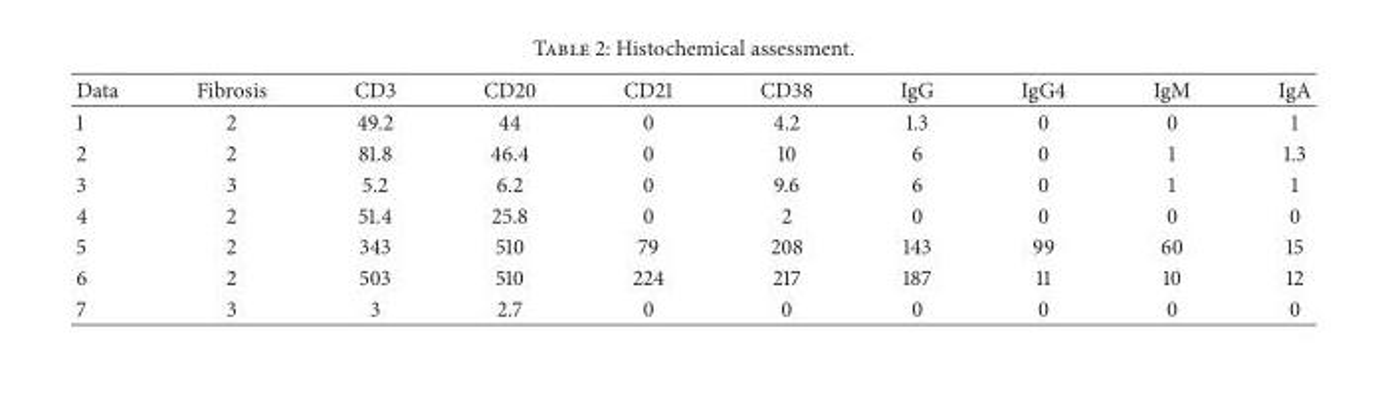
<table><thead><tr><td>Data</td><td>Fibrosis</td><td>CD3</td><td>CD20</td><td>CD21</td><td>CD38</td><td>IgG</td><td>IgG4</td><td>IgM</td><td>IgA</td></tr></thead><tbody><tr><td>1</td><td>2</td><td>49.2</td><td>44</td><td>0</td><td>4.2</td><td>1.3</td><td>0</td><td>0</td><td>1</td></tr><tr><td>2</td><td>2</td><td>81.8</td><td>46.4</td><td>0</td><td>10</td><td>6</td><td>0</td><td>1</td><td>1.3</td></tr><tr><td>3</td><td>3</td><td>5.2</td><td>6.2</td><td>0</td><td>9.6</td><td>6</td><td>0</td><td>1</td><td>1</td></tr><tr><td>4</td><td>2</td><td>51.4</td><td>25.8</td><td>0</td><td>2</td><td>0</td><td>0</td><td>0</td><td>0</td></tr><tr><td>5</td><td>2</td><td>343</td><td>510</td><td>79</td><td>208</td><td>143</td><td>99</td><td>60</td><td>15</td></tr><tr><td>6</td><td>2</td><td>503</td><td>510</td><td>224</td><td>217</td><td>187</td><td>11</td><td>10</td><td>12</td></tr><tr><td>7</td><td>3</td><td>3</td><td>2.7</td><td>0</td><td>0</td><td>0</td><td>0</td><td>0</td><td>0</td></tr></tbody></table>